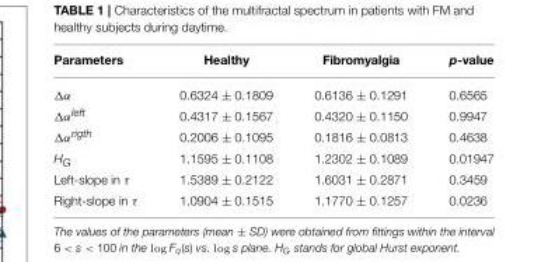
<table><thead><tr><td>Parameters</td><td>Healthy</td><td>Fibromyalgia</td><td>p-value</td></tr></thead><tbody><tr><td>Δα</td><td>0.6324 ± 0.1809</td><td>0.6136 ± 0.1291</td><td>0.6565</td></tr><tr><td>Δα<sup>left</sup></td><td>0.4317 ± 0.1567</td><td>0.4320 ± 0.1150</td><td>0.9947</td></tr><tr><td>Δα<sup>rigth</sup></td><td>0.2006 ± 0.1095</td><td>0.1816 ± 0.0813</td><td>0.4638</td></tr><tr><td>H<sub>G</sub></td><td>1.1595 ± 0.1108</td><td>1.2302 ± 0.1089</td><td>0.01947</td></tr><tr><td>Left-slope in τ</td><td>1.5389 ± 0.2122</td><td>1.6031 ± 0.2871</td><td>0.3459</td></tr><tr><td>Right-slope in τ</td><td>1.0904 ± 0.1515</td><td>1.1770 ± 0.1257</td><td>0.0236</td></tr></tbody></table>